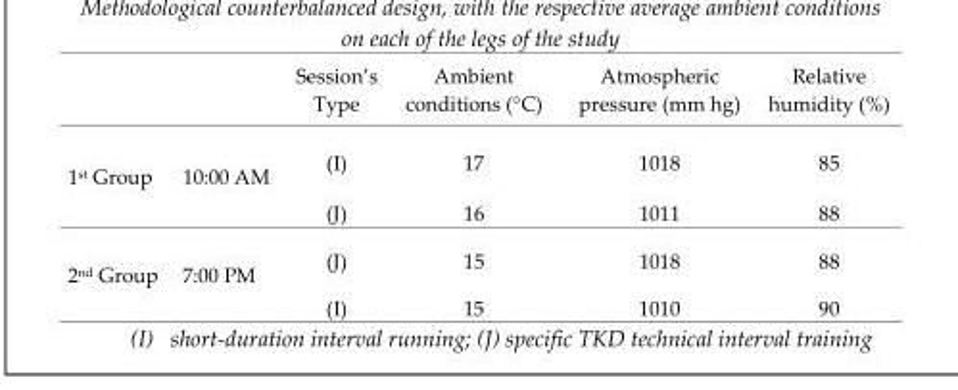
<table><thead><tr><td></td><td></td><td>Session’s Type</td><td>Ambient conditions (°C)</td><td>Atmospheric pressure (mm hg)</td><td>Relative humidity (%)</td></tr></thead><tbody><tr><td rowspan="2">1<sup>st</sup> Group</td><td rowspan="2">10:00 AM</td><td>(I)</td><td>17</td><td>1018</td><td>85</td></tr><tr><td>(J)</td><td>16</td><td>1011</td><td>88</td></tr><tr><td rowspan="2">2<sup>nd</sup> Group</td><td rowspan="2">7:00 PM</td><td>(J)</td><td>15</td><td>1018</td><td>88</td></tr><tr><td>(I)</td><td>15</td><td>1010</td><td>90</td></tr></tbody></table>